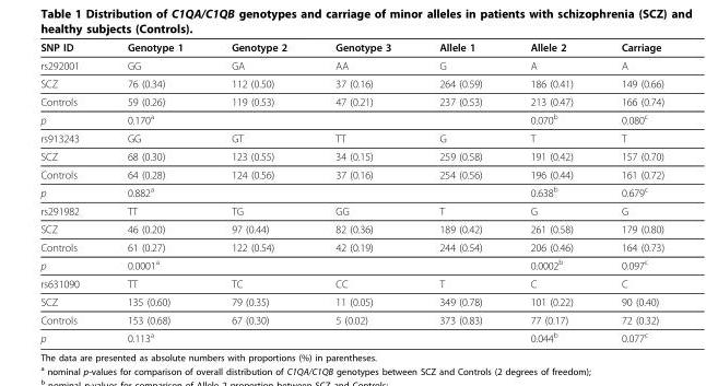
<table><thead><tr><td>SNP ID</td><td>Genotype 1</td><td>Genotype 2</td><td>Genotype 3</td><td>Allele 1</td><td>Allele 2</td><td>Carriage</td></tr></thead><tbody><tr><td>rs292001</td><td>GG</td><td>GA</td><td>AA</td><td>G</td><td>A</td><td>A</td></tr><tr><td>SCZ</td><td>76 (0.34)</td><td>112 (0.50)</td><td>37 (0.16)</td><td>264 (0.59)</td><td>186 (0.41)</td><td>149 (0.66)</td></tr><tr><td>Controls</td><td>59 (0.26)</td><td>119 (0.53)</td><td>47 (0.21)</td><td>237 (0.53)</td><td>213 (0.47)</td><td>166 (0.74)</td></tr><tr><td>p</td><td>0.170<sup>a</sup></td><td></td><td></td><td></td><td>0.070<sup>b</sup></td><td>0.080<sup>c</sup></td></tr><tr><td>rs913243</td><td>GG</td><td>GT</td><td>TT</td><td>G</td><td>T</td><td>T</td></tr><tr><td>SCZ</td><td>68 (0.30)</td><td>123 (0.55)</td><td>34 (0.15)</td><td>259 (0.58)</td><td>191 (0.42)</td><td>157 (0.70)</td></tr><tr><td>Controls</td><td>64 (0.28)</td><td>124 (0.56)</td><td>37 (0.16)</td><td>254 (0.56)</td><td>196 (0.44)</td><td>161 (0.72)</td></tr><tr><td>p</td><td>0.882<sup>a</sup></td><td></td><td></td><td></td><td>0.638<sup>b</sup></td><td>0.679<sup>c</sup></td></tr><tr><td>rs291982</td><td>TT</td><td>TG</td><td>GG</td><td>T</td><td>G</td><td>G</td></tr><tr><td>SCZ</td><td>46 (0.20)</td><td>97 (0.44)</td><td>82 (0.36)</td><td>189 (0.42)</td><td>261 (0.58)</td><td>179 (0.80)</td></tr><tr><td>Controls</td><td>61 (0.27)</td><td>122 (0.54)</td><td>42 (0.19)</td><td>244 (0.54)</td><td>206 (0.46)</td><td>164 (0.73)</td></tr><tr><td>p</td><td>0.0001<sup>a</sup></td><td></td><td></td><td></td><td>0.0002<sup>b</sup></td><td>0.097<sup>c</sup></td></tr><tr><td>rs631090</td><td>TT</td><td>TC</td><td>CC</td><td>T</td><td>C</td><td>C</td></tr><tr><td>SCZ</td><td>135 (0.60)</td><td>79 (0.35)</td><td>11 (0.05)</td><td>349 (0.78)</td><td>101 (0.22)</td><td>90 (0.40)</td></tr><tr><td>Controls</td><td>153 (0.68)</td><td>67 (0.30)</td><td>5 (0.02)</td><td>373 (0.83)</td><td>77 (0.17)</td><td>72 (0.32)</td></tr><tr><td>p</td><td>0.113<sup>a</sup></td><td></td><td></td><td></td><td>0.044<sup>b</sup></td><td>0.077<sup>c</sup></td></tr></tbody></table>